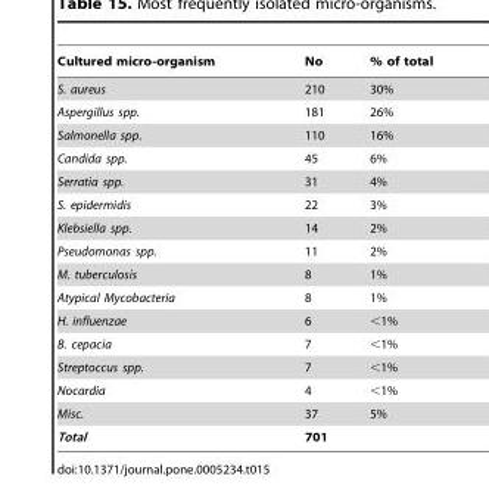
<table><thead><tr><td>Cultured micro-organism</td><td>No</td><td>% of total</td></tr></thead><tbody><tr><td>S. aureus</td><td>210</td><td>30%</td></tr><tr><td>Aspergillus spp.</td><td>181</td><td>26%</td></tr><tr><td>Salmonella spp.</td><td>110</td><td>16%</td></tr><tr><td>Candida spp.</td><td>45</td><td>6%</td></tr><tr><td>Serratia spp.</td><td>31</td><td>4%</td></tr><tr><td>S. epidermidis</td><td>22</td><td>3%</td></tr><tr><td>Klebsiella spp.</td><td>14</td><td>2%</td></tr><tr><td>Pseudomonas spp.</td><td>11</td><td>2%</td></tr><tr><td>M. tuberculosis</td><td>8</td><td>1%</td></tr><tr><td>Atypical Mycobacteria</td><td>8</td><td>1%</td></tr><tr><td>H. influenzae</td><td>6</td><td>&lt;1%</td></tr><tr><td>B. cepacia</td><td>7</td><td>&lt;1%</td></tr><tr><td>Streptoccus spp.</td><td>7</td><td>&lt;1%</td></tr><tr><td>Nocardia</td><td>4</td><td>&lt;1%</td></tr><tr><td>Misc.</td><td>37</td><td>5%</td></tr><tr><td>Total</td><td>701</td><td></td></tr></tbody></table>